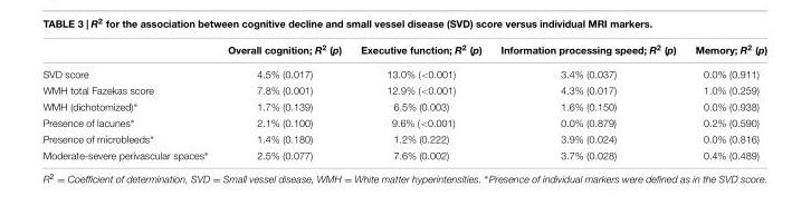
<table><thead><tr><td></td><td>Overall cognition; R<sup>2</sup> (p)</td><td>Executive function; R<sup>2</sup> (p)</td><td>Information processing speed; R<sup>2</sup> (p)</td><td>Memory; R<sup>2</sup> (p)</td></tr></thead><tbody><tr><td>SVD score</td><td>4.5% (0.017)</td><td>13.0% (&lt;0.001)</td><td>3.4% (0.037)</td><td>0.0% (0.911)</td></tr><tr><td>WMH total Fazekas score</td><td>7.8% (0.001)</td><td>12.9% (&lt;0.001)</td><td>4.3% (0.017)</td><td>1.0% (0.259)</td></tr><tr><td>WMH (dichotomized)∗</td><td>1.7% (0.139)</td><td>6.5% (0.003)</td><td>1.6% (0.150)</td><td>0.0% (0.938)</td></tr><tr><td>Presence of lacunes∗</td><td>2.1% (0.100)</td><td>9.6% (&lt;0.001)</td><td>0.0% (0.879)</td><td>0.2% (0.590)</td></tr><tr><td>Presence of microbleeds∗</td><td>1.4% (0.180)</td><td>1.2% (0.222)</td><td>3.9% (0.024)</td><td>0.0% (0.816)</td></tr><tr><td>Moderate-severe perivascular spaces∗</td><td>2.5% (0.077)</td><td>7.6% (0.002)</td><td>3.7% (0.028)</td><td>0.4% (0.489)</td></tr></tbody></table>